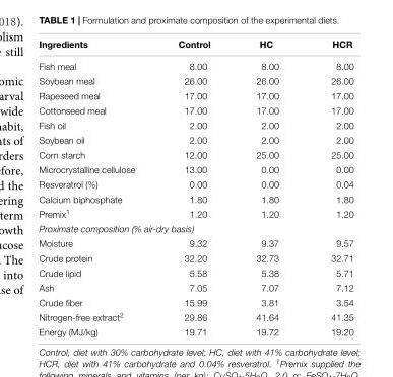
<table><thead><tr><td>Ingredients</td><td>Control</td><td>HC</td><td>HCR</td></tr></thead><tbody><tr><td>Fish meal</td><td>8.00</td><td>8.00</td><td>8.00</td></tr><tr><td>Soybean meal</td><td>26.00</td><td>26.00</td><td>26.00</td></tr><tr><td>Rapeseed meal</td><td>17.00</td><td>17.00</td><td>17.00</td></tr><tr><td>Cottonseed meal</td><td>17.00</td><td>17.00</td><td>17.00</td></tr><tr><td>Fish oil</td><td>2.00</td><td>2.00</td><td>2.00</td></tr><tr><td>Soybean oil</td><td>2.00</td><td>2.00</td><td>2.00</td></tr><tr><td>Corn starch</td><td>12.00</td><td>25.00</td><td>25.00</td></tr><tr><td>Microcrystalline cellulose</td><td>13.00</td><td>0.00</td><td>0.00</td></tr><tr><td>Resveratrol (%)</td><td>0.00</td><td>0.00</td><td>0.04</td></tr><tr><td>Calcium biphosphate</td><td>1.80</td><td>1.80</td><td>1.80</td></tr><tr><td>Premix<sup>1</sup></td><td>1.20</td><td>1.20</td><td>1.20</td></tr><tr><td colspan="4">Proximate composition (% air-dry basis)</td></tr><tr><td>Moisture</td><td>9.32</td><td>9.37</td><td>9.57</td></tr><tr><td>Crude protein</td><td>32.20</td><td>32.73</td><td>32.71</td></tr><tr><td>Crude lipid</td><td>5.58</td><td>5.38</td><td>5.71</td></tr><tr><td>Ash</td><td>7.05</td><td>7.07</td><td>7.12</td></tr><tr><td>Crude fiber</td><td>15.99</td><td>3.81</td><td>3.54</td></tr><tr><td>Nitrogen-free extract<sup>2</sup></td><td>29.86</td><td>41.64</td><td>41.35</td></tr><tr><td>Energy (MJ/kg)</td><td>19.71</td><td>19.72</td><td>19.20</td></tr></tbody></table>